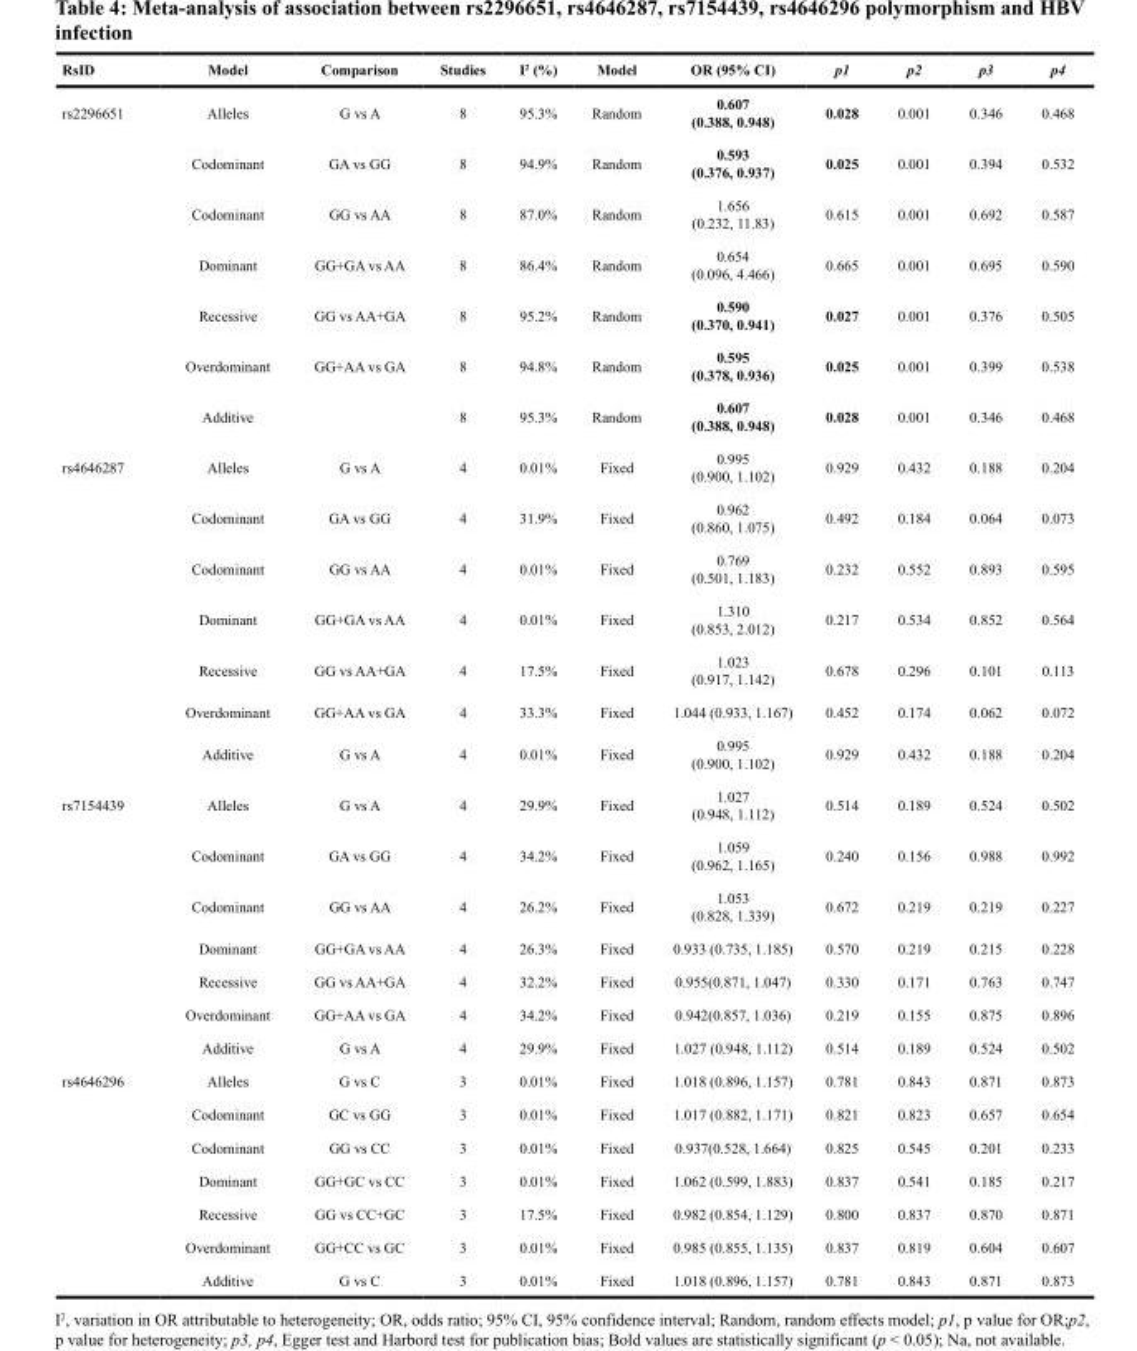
<table><thead><tr><td>RsID</td><td>Model</td><td>Comparison</td><td>Studies</td><td>I<sup>2</sup> (%)</td><td>Model</td><td>OR (95% CI)</td><td>p1</td><td>p2</td><td>p3</td><td>p4</td></tr></thead><tbody><tr><td rowspan="7">rs2296651</td><td>Alleles</td><td>G vs A</td><td>8</td><td>95.3%</td><td>Random</td><td>0.607 (0.388, 0.948)</td><td>0.028</td><td>0.001</td><td>0.346</td><td>0.468</td></tr><tr><td>Codominant</td><td>GA vs GG</td><td>8</td><td>94.9%</td><td>Random</td><td>0.593 (0.376, 0.937)</td><td>0.025</td><td>0.001</td><td>0.394</td><td>0.532</td></tr><tr><td>Codominant</td><td>GG vs AA</td><td>8</td><td>87.0%</td><td>Random</td><td>1.656 (0.232, 11.83)</td><td>0.615</td><td>0.001</td><td>0.692</td><td>0.587</td></tr><tr><td>Dominant</td><td>GG+GA vs AA</td><td>8</td><td>86.4%</td><td>Random</td><td>0.654 (0.096, 4.466)</td><td>0.665</td><td>0.001</td><td>0.695</td><td>0.590</td></tr><tr><td>Recessive</td><td>GG vs AA+GA</td><td>8</td><td>95.2%</td><td>Random</td><td>0.590 (0.370, 0.941)</td><td>0.027</td><td>0.001</td><td>0.376</td><td>0.505</td></tr><tr><td>Overdominant</td><td>GG+AA vs GA</td><td>8</td><td>94.8%</td><td>Random</td><td>0.595 (0.378, 0.936)</td><td>0.025</td><td>0.001</td><td>0.399</td><td>0.538</td></tr><tr><td>Additive</td><td></td><td>8</td><td>95.3%</td><td>Random</td><td>0.607 (0.388, 0.948)</td><td>0.028</td><td>0.001</td><td>0.346</td><td>0.468</td></tr><tr><td rowspan="7">rs4646287</td><td>Alleles</td><td>G vs A</td><td>4</td><td>0.01%</td><td>Fixed</td><td>0.995 (0.900, 1.102)</td><td>0.929</td><td>0.432</td><td>0.188</td><td>0.204</td></tr><tr><td>Codominant</td><td>GA vs GG</td><td>4</td><td>31.9%</td><td>Fixed</td><td>0.962 (0.860, 1.075)</td><td>0.492</td><td>0.184</td><td>0.064</td><td>0.073</td></tr><tr><td>Codominant</td><td>GG vs AA</td><td>4</td><td>0.01%</td><td>Fixed</td><td>0.769 (0.501, 1.183)</td><td>0.232</td><td>0.552</td><td>0.893</td><td>0.595</td></tr><tr><td>Dominant</td><td>GG+GA vs AA</td><td>4</td><td>0.01%</td><td>Fixed</td><td>1.310 (0.853, 2.012)</td><td>0.217</td><td>0.534</td><td>0.852</td><td>0.564</td></tr><tr><td>Recessive</td><td>GG vs AA+GA</td><td>4</td><td>17.5%</td><td>Fixed</td><td>1.023 (0.917, 1.142)</td><td>0.678</td><td>0.296</td><td>0.101</td><td>0.113</td></tr><tr><td>Overdominant</td><td>GG+AA vs GA</td><td>4</td><td>33.3%</td><td>Fixed</td><td>1.044 (0.933, 1.167)</td><td>0.452</td><td>0.174</td><td>0.062</td><td>0.072</td></tr><tr><td>Additive</td><td>G vs A</td><td>4</td><td>0.01%</td><td>Fixed</td><td>0.995 (0.900, 1.102)</td><td>0.929</td><td>0.432</td><td>0.188</td><td>0.204</td></tr><tr><td rowspan="7">rs7154439</td><td>Alleles</td><td>G vs A</td><td>4</td><td>29.9%</td><td>Fixed</td><td>1.027 (0.948, 1.112)</td><td>0.514</td><td>0.189</td><td>0.524</td><td>0.502</td></tr><tr><td>Codominant</td><td>GA vs GG</td><td>4</td><td>34.2%</td><td>Fixed</td><td>1.059 (0.962, 1.165)</td><td>0.240</td><td>0.156</td><td>0.988</td><td>0.992</td></tr><tr><td>Codominant</td><td>GG vs AA</td><td>4</td><td>26.2%</td><td>Fixed</td><td>1.053 (0.828, 1.339)</td><td>0.672</td><td>0.219</td><td>0.219</td><td>0.227</td></tr><tr><td>Dominant</td><td>GG+GA vs AA</td><td>4</td><td>26.3%</td><td>Fixed</td><td>0.933 (0.735, 1.185)</td><td>0.570</td><td>0.219</td><td>0.215</td><td>0.228</td></tr><tr><td>Recessive</td><td>GG vs AA+GA</td><td>4</td><td>32.2%</td><td>Fixed</td><td>0.955(0.871, 1.047)</td><td>0.330</td><td>0.171</td><td>0.763</td><td>0.747</td></tr><tr><td>Overdominant</td><td>GG+AA vs GA</td><td>4</td><td>34.2%</td><td>Fixed</td><td>0.942(0.857, 1.036)</td><td>0.219</td><td>0.155</td><td>0.875</td><td>0.896</td></tr><tr><td>Additive</td><td>G vs A</td><td>4</td><td>29.9%</td><td>Fixed</td><td>1.027 (0.948, 1.112)</td><td>0.514</td><td>0.189</td><td>0.524</td><td>0.502</td></tr><tr><td rowspan="7">rs4646296</td><td>Alleles</td><td>G vs C</td><td>3</td><td>0.01%</td><td>Fixed</td><td>1.018 (0.896, 1.157)</td><td>0.781</td><td>0.843</td><td>0.871</td><td>0.873</td></tr><tr><td>Codominant</td><td>GC vs GG</td><td>3</td><td>0.01%</td><td>Fixed</td><td>1.017 (0.882, 1.171)</td><td>0.821</td><td>0.823</td><td>0.657</td><td>0.654</td></tr><tr><td>Codominant</td><td>GG vs CC</td><td>3</td><td>0.01%</td><td>Fixed</td><td>0.937(0.528, 1.664)</td><td>0.825</td><td>0.545</td><td>0.201</td><td>0.233</td></tr><tr><td>Dominant</td><td>GG+GC vs CC</td><td>3</td><td>0.01%</td><td>Fixed</td><td>1.062 (0.599, 1.883)</td><td>0.837</td><td>0.541</td><td>0.185</td><td>0.217</td></tr><tr><td>Recessive</td><td>GG vs CC+GC</td><td>3</td><td>17.5%</td><td>Fixed</td><td>0.982 (0.854, 1.129)</td><td>0.800</td><td>0.837</td><td>0.870</td><td>0.871</td></tr><tr><td>Overdominant</td><td>GG+CC vs GC</td><td>3</td><td>0.01%</td><td>Fixed</td><td>0.985 (0.855, 1.135)</td><td>0.837</td><td>0.819</td><td>0.604</td><td>0.607</td></tr><tr><td>Additive</td><td>G vs C</td><td>3</td><td>0.01%</td><td>Fixed</td><td>1.018 (0.896, 1.157)</td><td>0.781</td><td>0.843</td><td>0.871</td><td>0.873</td></tr></tbody></table>